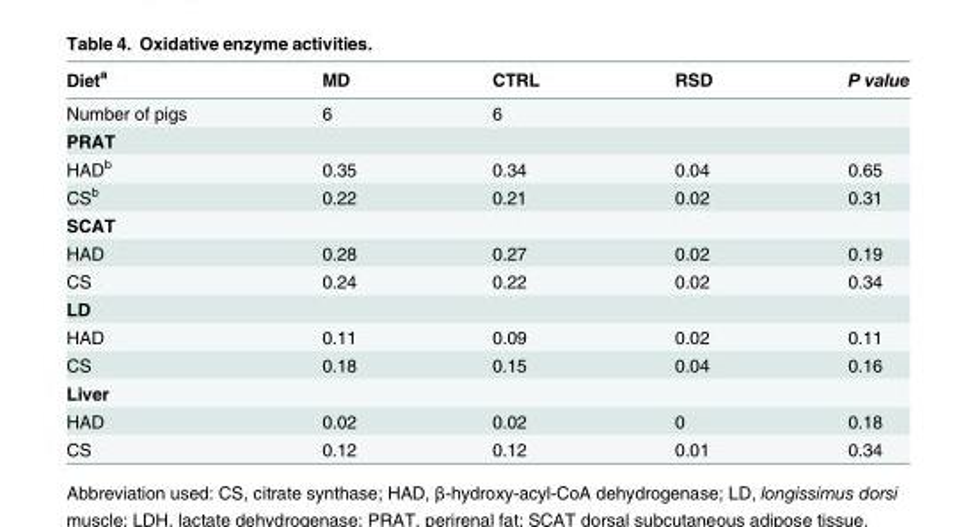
<table><thead><tr><td>Diet<sup>a</sup></td><td>MD</td><td>CTRL</td><td>RSD</td><td>P value</td></tr></thead><tbody><tr><td>Number of pigs</td><td>6</td><td>6</td><td></td><td></td></tr><tr><td colspan="5">PRAT</td></tr><tr><td>HAD<sup>b</sup></td><td>0.35</td><td>0.34</td><td>0.04</td><td>0.65</td></tr><tr><td>CS<sup>b</sup></td><td>0.22</td><td>0.21</td><td>0.02</td><td>0.31</td></tr><tr><td colspan="5">SCAT</td></tr><tr><td>HAD</td><td>0.28</td><td>0.27</td><td>0.02</td><td>0.19</td></tr><tr><td>CS</td><td>0.24</td><td>0.22</td><td>0.02</td><td>0.34</td></tr><tr><td colspan="5">LD</td></tr><tr><td>HAD</td><td>0.11</td><td>0.09</td><td>0.02</td><td>0.11</td></tr><tr><td>CS</td><td>0.18</td><td>0.15</td><td>0.04</td><td>0.16</td></tr><tr><td colspan="5">Liver</td></tr><tr><td>HAD</td><td>0.02</td><td>0.02</td><td>0</td><td>0.18</td></tr><tr><td>CS</td><td>0.12</td><td>0.12</td><td>0.01</td><td>0.34</td></tr></tbody></table>